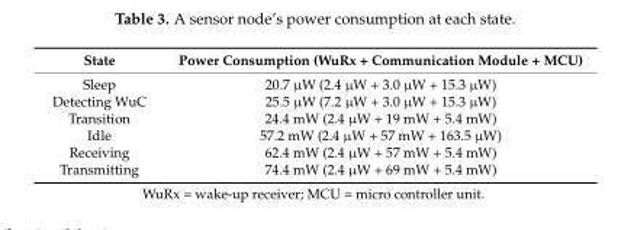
<table><thead><tr><td>State</td><td>Power Consumption (WuRx + Communication Module + MCU)</td></tr></thead><tbody><tr><td>Sleep</td><td>20.7 µW (2.4 µW + 3.0 µW + 15.3 µW)</td></tr><tr><td>Detecting WuC</td><td>25.5 µW (7.2 µW + 3.0 µW + 15.3 µW)</td></tr><tr><td>Transition</td><td>24.4 mW (2.4 µW + 19 mW + 5.4 mW)</td></tr><tr><td>Idle</td><td>57.2 mW (2.4 µW + 57 mW + 163.5 µW)</td></tr><tr><td>Receiving</td><td>62.4 mW (2.4 µW + 57 mW + 5.4 mW)</td></tr><tr><td>Transmitting</td><td>74.4 mW (2.4 µW + 69 mW + 5.4 mW)</td></tr></tbody></table>